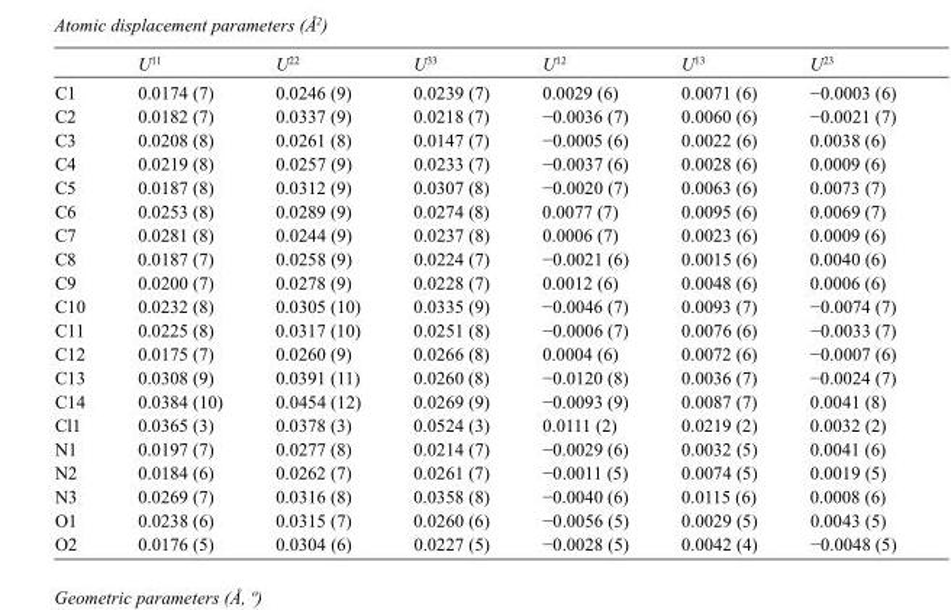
<table><thead><tr><td></td><td>U<sup>11</sup></td><td>U<sup>22</sup></td><td>U<sup>33</sup></td><td>U<sup>12</sup></td><td>U<sup>13</sup></td><td>U<sup>23</sup></td></tr></thead><tbody><tr><td>C1</td><td>0.0174 (7)</td><td>0.0246 (9)</td><td>0.0239 (7)</td><td>0.0029 (6)</td><td>0.0071 (6)</td><td>−0.0003 (6)</td></tr><tr><td>C2</td><td>0.0182 (7)</td><td>0.0337 (9)</td><td>0.0218 (7)</td><td>−0.0036 (7)</td><td>0.0060 (6)</td><td>−0.0021 (7)</td></tr><tr><td>C3</td><td>0.0208 (8)</td><td>0.0261 (8)</td><td>0.0147 (7)</td><td>−0.0005 (6)</td><td>0.0022 (6)</td><td>0.0038 (6)</td></tr><tr><td>C4</td><td>0.0219 (8)</td><td>0.0257 (9)</td><td>0.0233 (7)</td><td>−0.0037 (6)</td><td>0.0028 (6)</td><td>0.0009 (6)</td></tr><tr><td>C5</td><td>0.0187 (8)</td><td>0.0312 (9)</td><td>0.0307 (8)</td><td>−0.0020 (7)</td><td>0.0063 (6)</td><td>0.0073 (7)</td></tr><tr><td>C6</td><td>0.0253 (8)</td><td>0.0289 (9)</td><td>0.0274 (8)</td><td>0.0077 (7)</td><td>0.0095 (6)</td><td>0.0069 (7)</td></tr><tr><td>C7</td><td>0.0281 (8)</td><td>0.0244 (9)</td><td>0.0237 (8)</td><td>0.0006 (7)</td><td>0.0023 (6)</td><td>0.0009 (6)</td></tr><tr><td>C8</td><td>0.0187 (7)</td><td>0.0258 (9)</td><td>0.0224 (7)</td><td>−0.0021 (6)</td><td>0.0015 (6)</td><td>0.0040 (6)</td></tr><tr><td>C9</td><td>0.0200 (7)</td><td>0.0278 (9)</td><td>0.0228 (7)</td><td>0.0012 (6)</td><td>0.0048 (6)</td><td>0.0006 (6)</td></tr><tr><td>C10</td><td>0.0232 (8)</td><td>0.0305 (10)</td><td>0.0335 (9)</td><td>−0.0046 (7)</td><td>0.0093 (7)</td><td>−0.0074 (7)</td></tr><tr><td>C11</td><td>0.0225 (8)</td><td>0.0317 (10)</td><td>0.0251 (8)</td><td>−0.0006 (7)</td><td>0.0076 (6)</td><td>−0.0033 (7)</td></tr><tr><td>C12</td><td>0.0175 (7)</td><td>0.0260 (9)</td><td>0.0266 (8)</td><td>0.0004 (6)</td><td>0.0072 (6)</td><td>−0.0007 (6)</td></tr><tr><td>C13</td><td>0.0308 (9)</td><td>0.0391 (11)</td><td>0.0260 (8)</td><td>−0.0120 (8)</td><td>0.0036 (7)</td><td>−0.0024 (7)</td></tr><tr><td>C14</td><td>0.0384 (10)</td><td>0.0454 (12)</td><td>0.0269 (9)</td><td>−0.0093 (9)</td><td>0.0087 (7)</td><td>0.0041 (8)</td></tr><tr><td>Cl1</td><td>0.0365 (3)</td><td>0.0378 (3)</td><td>0.0524 (3)</td><td>0.0111 (2)</td><td>0.0219 (2)</td><td>0.0032 (2)</td></tr><tr><td>N1</td><td>0.0197 (7)</td><td>0.0277 (8)</td><td>0.0214 (7)</td><td>−0.0029 (6)</td><td>0.0032 (5)</td><td>0.0041 (6)</td></tr><tr><td>N2</td><td>0.0184 (6)</td><td>0.0262 (7)</td><td>0.0261 (7)</td><td>−0.0011 (5)</td><td>0.0074 (5)</td><td>0.0019 (5)</td></tr><tr><td>N3</td><td>0.0269 (7)</td><td>0.0316 (8)</td><td>0.0358 (8)</td><td>−0.0040 (6)</td><td>0.0115 (6)</td><td>0.0008 (6)</td></tr><tr><td>O1</td><td>0.0238 (6)</td><td>0.0315 (7)</td><td>0.0260 (6)</td><td>−0.0056 (5)</td><td>0.0029 (5)</td><td>0.0043 (5)</td></tr><tr><td>O2</td><td>0.0176 (5)</td><td>0.0304 (6)</td><td>0.0227 (5)</td><td>−0.0028 (5)</td><td>0.0042 (4)</td><td>−0.0048 (5)</td></tr></tbody></table>